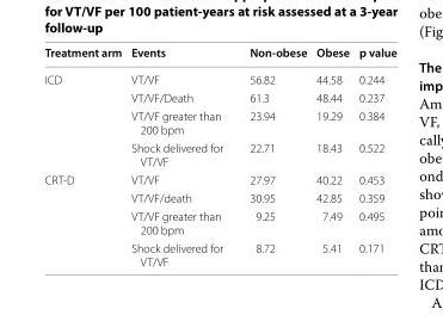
<table><thead><tr><td>Treatment arm</td><td>Events</td><td>Non-obese</td><td>Obese</td><td>p value</td></tr></thead><tbody><tr><td rowspan="4">ICD</td><td>VT/VF</td><td>56.82</td><td>44.58</td><td>0.244</td></tr><tr><td>VT/VF/Death</td><td>61.3</td><td>48.44</td><td>0.237</td></tr><tr><td>VT/VF greater than 200 bpm</td><td>23.94</td><td>19.29</td><td>0.384</td></tr><tr><td>Shock delivered for VT/VF</td><td>22.71</td><td>18.43</td><td>0.522</td></tr><tr><td rowspan="4">CRT-D</td><td>VT/VF</td><td>27.97</td><td>40.22</td><td>0.453</td></tr><tr><td>VT/VF/death</td><td>30.95</td><td>42.85</td><td>0.359</td></tr><tr><td>VT/VF greater than 200 bpm</td><td>9.25</td><td>7.49</td><td>0.495</td></tr><tr><td>Shock delivered for VT/VF</td><td>8.72</td><td>5.41</td><td>0.171</td></tr></tbody></table>